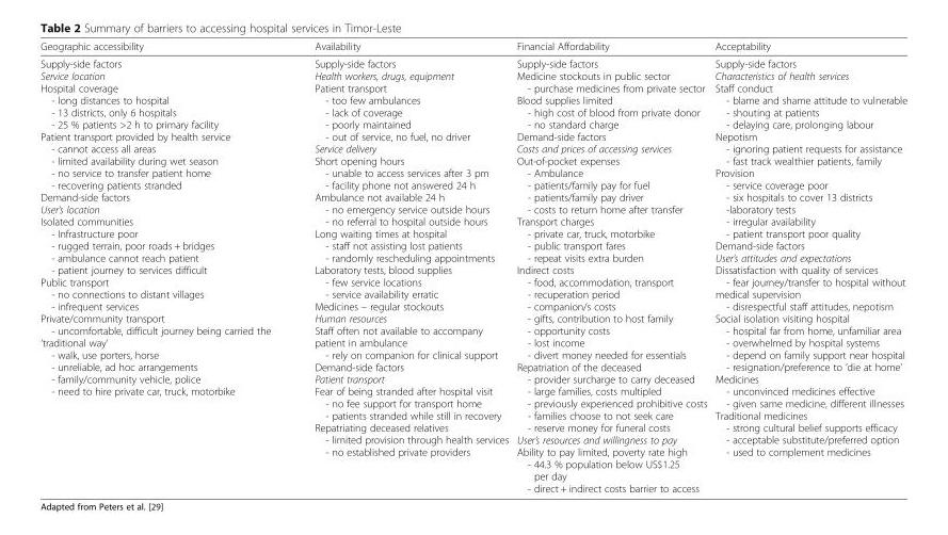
<table><thead><tr><td>Geographic accessibility</td><td>Availability</td><td>Financial Affordability</td><td>Acceptability</td></tr></thead><tbody><tr><td>Supply-side factors Service location Hospital coverage - long distances to hospital - 13 districts, only 6 hospitals - 25 % patients &gt;2 h to primary facility Patient transport provided by health service - cannot access all areas - limited availability during wet season - no service to transfer patient home - recovering patients stranded Demand-side factors User’s location Isolated communities - Infrastructure poor - rugged terrain, poor roads + bridges - ambulance cannot reach patient - patient journey to services difficult Public transport - no connections to distant villages - infrequent services Private/community transport - uncomfortable, difficult journey being carried the ‘traditional way’ - walk, use porters, horse - unreliable, ad hoc arrangements - family/community vehicle, police - need to hire private car, truck, motorbike</td><td>Supply-side factors Health workers, drugs, equipment Patient transport - too few ambulances - lack of coverage - poorly maintained - out of service, no fuel, no driver Service delivery Short opening hours - unable to access services after 3 pm - facility phone not answered 24 h Ambulance not available 24 h - no emergency service outside hours - no referral to hospital outside hours Long waiting times at hospital - staff not assisting lost patients - randomly rescheduling appointments Laboratory tests, blood supplies - few service locations - service availability erratic Medicines – regular stockouts Human resources Staff often not available to accompany patient in ambulance - rely on companion for clinical support Demand-side factors Patient transport Fear of being stranded after hospital visit - no fee support for transport home - patients stranded while still in recovery Repatriating deceased relatives - limited provision through health services - no established private providers</td><td>Supply-side factors Medicine stockouts in public sector - purchase medicines from private sector Blood supplies limited - high cost of blood from private donor - no standard charge Demand-side factors Costs and prices of accessing services Out-of-pocket expenses - Ambulance - patients/family pay for fuel - patients/family pay driver - costs to return home after transfer Transport charges - private car, truck, motorbike - public transport fares - repeat visits extra burden Indirect costs - food, accommodation, transport - recuperation period - companion/s costs - gifts, contribution to host family - opportunity costs - lost income - divert money needed for essentials Repatriation of the deceased - provider surcharge to carry deceased - large families, costs multipled - previously experienced prohibitive costs - families choose to not seek care - reserve money for funeral costs User’s resources and willingness to pay Ability to pay limited, poverty rate high - 44.3 % population below US$1.25 per day - direct + indirect costs barrier to access</td><td>Supply-side factors Characteristics of health services Staff conduct - blame and shame attitude to vulnerable - shouting at patients - delaying care, prolonging labour Nepotism - ignoring patient requests for assistance - fast track wealthier patients, family Provision - service coverage poor - six hospitals to cover 13 districts -laboratory tests - irregular availability - patient transport poor quality Demand-side factors User’s attitudes and expectations Dissatisfaction with quality of services - fear journey/transfer to hospital without medical supervision - disrespectful staff attitudes, nepotism Social isolation visiting hospital - hospital far from home, unfamiliar area - overwhelmed by hospital systems - depend on family support near hospital - resignation/preference to ‘die at home’ Medicines - unconvinced medicines effective - given same medicine, different illnesses Traditional medicines - strong cultural belief supports efficacy - acceptable substitute/preferred option - used to complement medicines</td></tr></tbody></table>